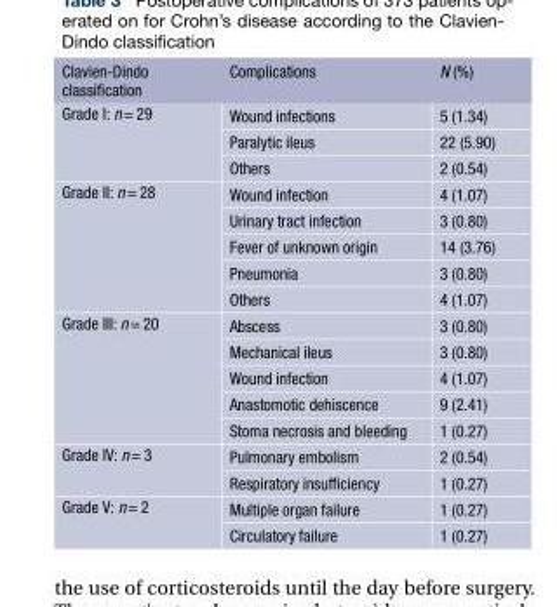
<table><thead><tr><td>Clavien-Dindo classification</td><td>Complications</td><td>N (%)</td></tr></thead><tbody><tr><td rowspan="3">Grade I: n= 29</td><td>Wound infections</td><td>5 (1.34)</td></tr><tr><td>Paralytic ileus</td><td>22 (5.90)</td></tr><tr><td>Others</td><td>2 (0.54)</td></tr><tr><td rowspan="5">Grade II: n= 28</td><td>Wound infection</td><td>4 (1.07)</td></tr><tr><td>Urinary tract infection</td><td>3 (0.80)</td></tr><tr><td>Fever of unknown origin</td><td>14 (3.76)</td></tr><tr><td>Pneumonia</td><td>3 (0.80)</td></tr><tr><td>Others</td><td>4 (1.07)</td></tr><tr><td rowspan="5">Grade III: n= 20</td><td>Abscess</td><td>3 (0.80)</td></tr><tr><td>Mechanical ileus</td><td>3 (0.80)</td></tr><tr><td>Wound infection</td><td>4 (1.07)</td></tr><tr><td>Anastomotic dehiscence</td><td>9 (2.41)</td></tr><tr><td>Stoma necrosis and bleeding</td><td>1 (0.27)</td></tr><tr><td rowspan="2">Grade IV: n= 3</td><td>Pulmonary embolism</td><td>2 (0.54)</td></tr><tr><td>Respiratory insufficiency</td><td>1 (0.27)</td></tr><tr><td rowspan="2">Grade V: n= 2</td><td>Multiple organ failure</td><td>1 (0.27)</td></tr><tr><td>Circulatory failure</td><td>1 (0.27)</td></tr></tbody></table>